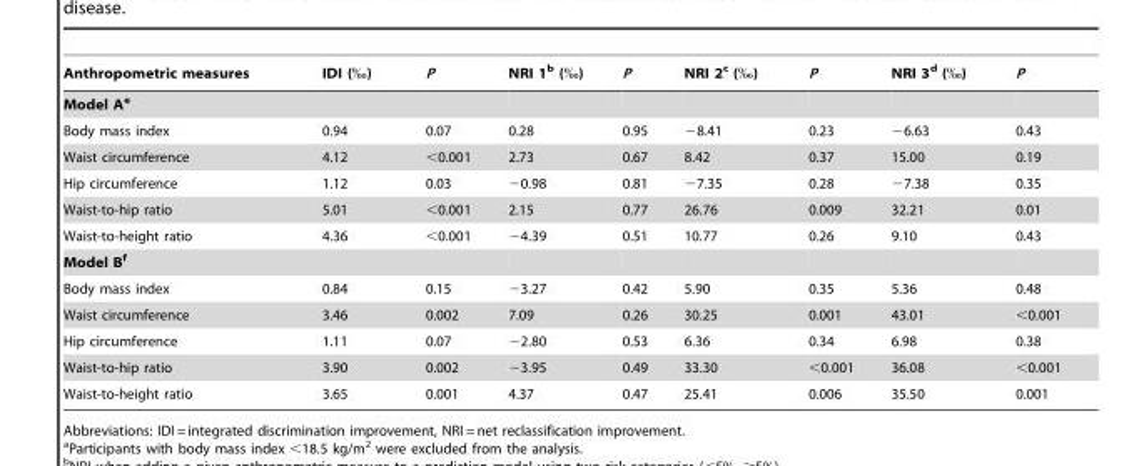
<table><thead><tr><td>Anthropometric measures</td><td>IDI (‰)</td><td>P</td><td>NRI 1<sup>b</sup> (‰)</td><td>P</td><td>NRI 2<sup>c</sup> (‰)</td><td>P</td><td>NRI 3<sup>d</sup> (‰)</td><td>P</td></tr></thead><tbody><tr><td colspan="9">Model Ae</td></tr><tr><td>Body mass index</td><td>0.94</td><td>0.07</td><td>0.28</td><td>0.95</td><td>−8.41</td><td>0.23</td><td>−6.63</td><td>0.43</td></tr><tr><td>Waist circumference</td><td>4.12</td><td>&lt;0.001</td><td>2.73</td><td>0.67</td><td>8.42</td><td>0.37</td><td>15.00</td><td>0.19</td></tr><tr><td>Hip circumference</td><td>1.12</td><td>0.03</td><td>−0.98</td><td>0.81</td><td>−7.35</td><td>0.28</td><td>−7.38</td><td>0.35</td></tr><tr><td>Waist-to-hip ratio</td><td>5.01</td><td>&lt;0.001</td><td>2.15</td><td>0.77</td><td>26.76</td><td>0.009</td><td>32.21</td><td>0.01</td></tr><tr><td>Waist-to-height ratio</td><td>4.36</td><td>&lt;0.001</td><td>−4.39</td><td>0.51</td><td>10.77</td><td>0.26</td><td>9.10</td><td>0.43</td></tr><tr><td colspan="9">Model Bf</td></tr><tr><td>Body mass index</td><td>0.84</td><td>0.15</td><td>−3.27</td><td>0.42</td><td>5.90</td><td>0.35</td><td>5.36</td><td>0.48</td></tr><tr><td>Waist circumference</td><td>3.46</td><td>0.002</td><td>7.09</td><td>0.26</td><td>30.25</td><td>0.001</td><td>43.01</td><td>&lt;0.001</td></tr><tr><td>Hip circumference</td><td>1.11</td><td>0.07</td><td>−2.80</td><td>0.53</td><td>6.36</td><td>0.34</td><td>6.98</td><td>0.38</td></tr><tr><td>Waist-to-hip ratio</td><td>3.90</td><td>0.002</td><td>−3.95</td><td>0.49</td><td>33.30</td><td>&lt;0.001</td><td>36.08</td><td>&lt;0.001</td></tr><tr><td>Waist-to-height ratio</td><td>3.65</td><td>0.001</td><td>4.37</td><td>0.47</td><td>25.41</td><td>0.006</td><td>35.50</td><td>0.001</td></tr></tbody></table>